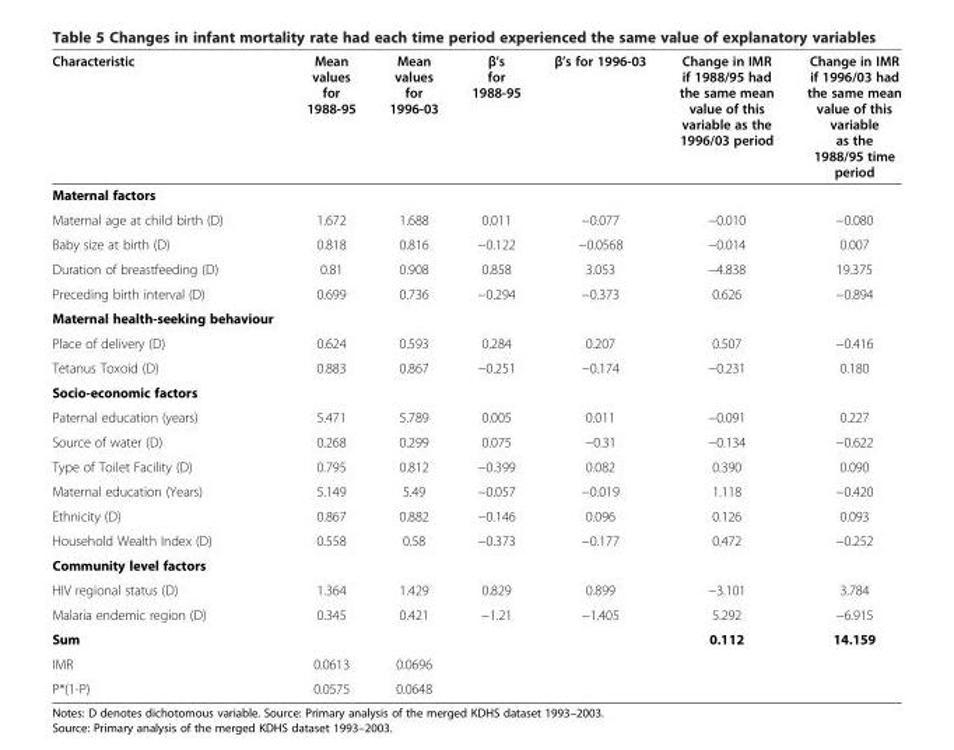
<table><thead><tr><td>Characteristic</td><td>Mean values for 1988-95</td><td>Mean values for 1996-03</td><td>β’s for 1988-95</td><td>β’s for 1996-03</td><td>Change in IMR if 1988/95 had the same mean value of this variable as the 1996/03 period</td><td>Change in IMR if 1996/03 had the same mean value of this variable as the 1988/95 time period</td></tr></thead><tbody><tr><td colspan="7">Maternal factors</td></tr><tr><td>Maternal age at child birth (D)</td><td>1.672</td><td>1.688</td><td>0.011</td><td>−0.077</td><td>−0.010</td><td>−0.080</td></tr><tr><td>Baby size at birth (D)</td><td>0.818</td><td>0.816</td><td>−0.122</td><td>−0.0568</td><td>−0.014</td><td>0.007</td></tr><tr><td>Duration of breastfeeding (D)</td><td>0.81</td><td>0.908</td><td>0.858</td><td>3.053</td><td>−4.838</td><td>19.375</td></tr><tr><td>Preceding birth interval (D)</td><td>0.699</td><td>0.736</td><td>−0.294</td><td>−0.373</td><td>0.626</td><td>−0.894</td></tr><tr><td colspan="7">Maternal health-seeking behaviour</td></tr><tr><td>Place of delivery (D)</td><td>0.624</td><td>0.593</td><td>0.284</td><td>0.207</td><td>0.507</td><td>−0.416</td></tr><tr><td>Tetanus Toxoid (D)</td><td>0.883</td><td>0.867</td><td>−0.251</td><td>−0.174</td><td>−0.231</td><td>0.180</td></tr><tr><td colspan="7">Socio-economic factors</td></tr><tr><td>Paternal education (years)</td><td>5.471</td><td>5.789</td><td>0.005</td><td>0.011</td><td>−0.091</td><td>0.227</td></tr><tr><td>Source of water (D)</td><td>0.268</td><td>0.299</td><td>0.075</td><td>−0.31</td><td>−0.134</td><td>−0.622</td></tr><tr><td>Type of Toilet Facility (D)</td><td>0.795</td><td>0.812</td><td>−0.399</td><td>0.082</td><td>0.390</td><td>0.090</td></tr><tr><td>Maternal education (Years)</td><td>5.149</td><td>5.49</td><td>−0.057</td><td>−0.019</td><td>1.118</td><td>−0.420</td></tr><tr><td>Ethnicity (D)</td><td>0.867</td><td>0.882</td><td>−0.146</td><td>0.096</td><td>0.126</td><td>0.093</td></tr><tr><td>Household Wealth Index (D)</td><td>0.558</td><td>0.58</td><td>−0.373</td><td>−0.177</td><td>0.472</td><td>−0.252</td></tr><tr><td colspan="7">Community level factors</td></tr><tr><td>HIV regional status (D)</td><td>1.364</td><td>1.429</td><td>0.829</td><td>0.899</td><td>−3.101</td><td>3.784</td></tr><tr><td>Malaria endemic region (D)</td><td>0.345</td><td>0.421</td><td>−1.21</td><td>−1.405</td><td>5.292</td><td>−6.915</td></tr><tr><td>Sum</td><td></td><td></td><td></td><td></td><td>0.112</td><td>14.159</td></tr><tr><td>IMR</td><td>0.0613</td><td>0.0696</td><td></td><td></td><td></td><td></td></tr><tr><td>P*(1-P)</td><td>0.0575</td><td>0.0648</td><td></td><td></td><td></td><td></td></tr></tbody></table>